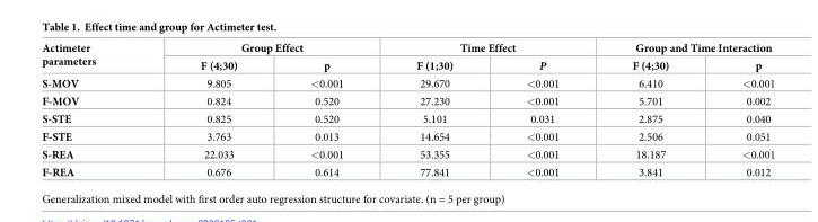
<table><thead><tr><td rowspan="2">Actimeter parameters</td><td colspan="2">Group Effect</td><td colspan="2">Time Effect</td><td colspan="2">Group and Time Interaction</td></tr><tr><td>F (4;30)</td><td>p</td><td>F (1;30)</td><td>P</td><td>F (4;30)</td><td>p</td></tr></thead><tbody><tr><td>S-MOV</td><td>9.805</td><td>&lt;0.001</td><td>29.670</td><td>&lt;0.001</td><td>6.410</td><td>&lt;0.001</td></tr><tr><td>F-MOV</td><td>0.824</td><td>0.520</td><td>27.230</td><td>&lt;0.001</td><td>5.701</td><td>0.002</td></tr><tr><td>S-STE</td><td>0.825</td><td>0.520</td><td>5.101</td><td>0.031</td><td>2.875</td><td>0.040</td></tr><tr><td>F-STE</td><td>3.763</td><td>0.013</td><td>14.654</td><td>&lt;0.001</td><td>2.506</td><td>0.051</td></tr><tr><td>S-REA</td><td>22.033</td><td>&lt;0.001</td><td>53.355</td><td>&lt;0.001</td><td>18.187</td><td>&lt;0.001</td></tr><tr><td>F-REA</td><td>0.676</td><td>0.614</td><td>77.841</td><td>&lt;0.001</td><td>3.841</td><td>0.012</td></tr></tbody></table>